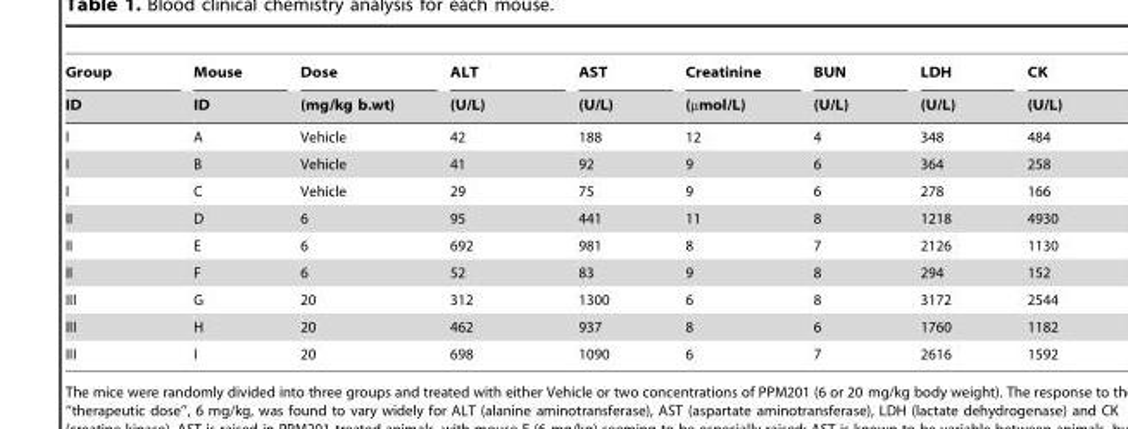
<table><thead><tr><td rowspan="2">Group ID</td><td rowspan="2">Mouse ID</td><td rowspan="2">Dose (mg/kg b.wt)</td><td rowspan="2">ALT (U/L)</td><td rowspan="2">AST (U/L)</td><td rowspan="2">Creatinine (mmol/L)</td><td rowspan="2">BUN (U/L)</td><td rowspan="2">LDH (U/L)</td><td rowspan="2">CK (U/L)</td></tr><tr></tr></thead><tbody><tr><td>I</td><td>A</td><td>Vehicle</td><td>42</td><td>188</td><td>12</td><td>4</td><td>348</td><td>484</td></tr><tr><td>I</td><td>B</td><td>Vehicle</td><td>41</td><td>92</td><td>9</td><td>6</td><td>364</td><td>258</td></tr><tr><td>I</td><td>C</td><td>Vehicle</td><td>29</td><td>75</td><td>9</td><td>6</td><td>278</td><td>166</td></tr><tr><td>II</td><td>D</td><td>6</td><td>95</td><td>441</td><td>11</td><td>8</td><td>1218</td><td>4930</td></tr><tr><td>II</td><td>E</td><td>6</td><td>692</td><td>981</td><td>8</td><td>7</td><td>2126</td><td>1130</td></tr><tr><td>II</td><td>F</td><td>6</td><td>52</td><td>83</td><td>9</td><td>8</td><td>294</td><td>152</td></tr><tr><td>III</td><td>G</td><td>20</td><td>312</td><td>1300</td><td>6</td><td>8</td><td>3172</td><td>2544</td></tr><tr><td>III</td><td>H</td><td>20</td><td>462</td><td>937</td><td>8</td><td>6</td><td>1760</td><td>1182</td></tr><tr><td>III</td><td>I</td><td>20</td><td>698</td><td>1090</td><td>6</td><td>7</td><td>2616</td><td>1592</td></tr></tbody></table>